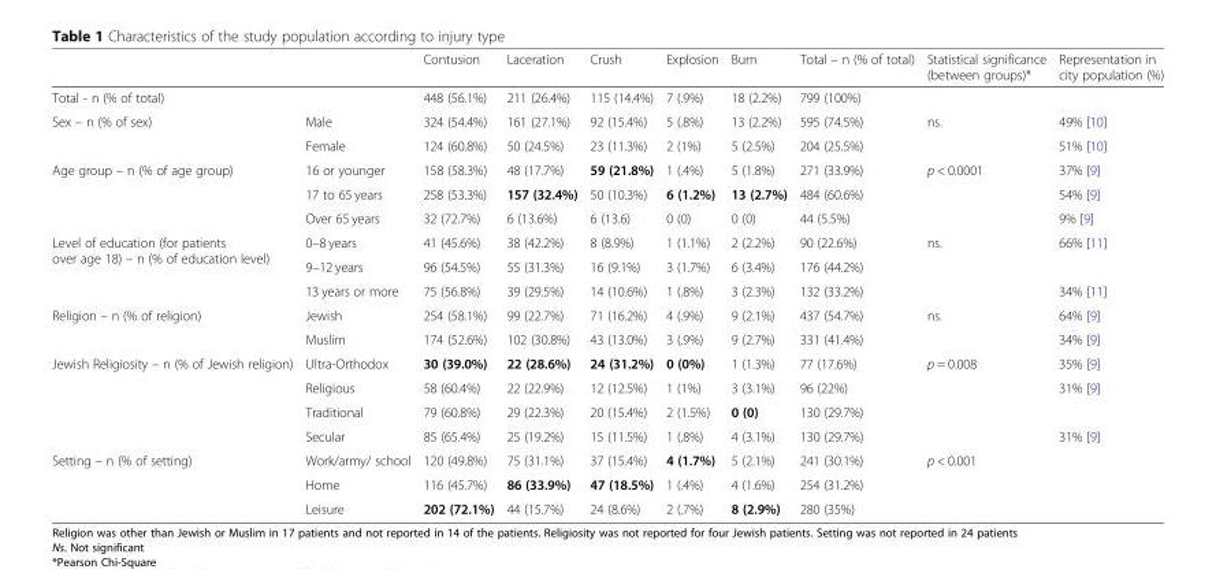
<table><thead><tr><td></td><td></td><td>Contusion</td><td>Laceration</td><td>Crush</td><td>Explosion</td><td>Burn</td><td>Total – n (% of total)</td><td>Statistical significance (between groups)*</td><td>Representation in city population (%)</td></tr></thead><tbody><tr><td>Total - n (% of total)</td><td></td><td>448 (56.1%)</td><td>211 (26.4%)</td><td>115 (14.4%)</td><td>7 (.9%)</td><td>18 (2.2%)</td><td>799 (100%)</td><td></td><td></td></tr><tr><td rowspan="2">Sex – n (% of sex)</td><td>Male</td><td>324 (54.4%)</td><td>161 (27.1%)</td><td>92 (15.4%)</td><td>5 (.8%)</td><td>13 (2.2%)</td><td>595 (74.5%)</td><td rowspan="2">ns.</td><td>49% [10]</td></tr><tr><td>Female</td><td>124 (60.8%)</td><td>50 (24.5%)</td><td>23 (11.3%)</td><td>2 (1%)</td><td>5 (2.5%)</td><td>204 (25.5%)</td><td>51% [10]</td></tr><tr><td rowspan="3">Age group – n (% of age group)</td><td>16 or younger</td><td>158 (58.3%)</td><td>48 (17.7%)</td><td>59 (21.8%)</td><td>1 (.4%)</td><td>5 (1.8%)</td><td>271 (33.9%)</td><td rowspan="3">p &lt; 0.0001</td><td>37% [9]</td></tr><tr><td>17 to 65 years</td><td>258 (53.3%)</td><td>157 (32.4%)</td><td>50 (10.3%)</td><td>6 (1.2%)</td><td>13 (2.7%)</td><td>484 (60.6%)</td><td>54% [9]</td></tr><tr><td>Over 65 years</td><td>32 (72.7%)</td><td>6 (13.6%)</td><td>6 (13.6)</td><td>0 (0)</td><td>0 (0)</td><td>44 (5.5%)</td><td>9% [9]</td></tr><tr><td rowspan="3">Level of education (for patients over age 18) – n (% of education level)</td><td>0–8 years</td><td>41 (45.6%)</td><td>38 (42.2%)</td><td>8 (8.9%)</td><td>1 (1.1%)</td><td>2 (2.2%)</td><td>90 (22.6%)</td><td rowspan="3">ns.</td><td rowspan="2">66% [11]</td></tr><tr><td>9–12 years</td><td>96 (54.5%)</td><td>55 (31.3%)</td><td>16 (9.1%)</td><td>3 (1.7%)</td><td>6 (3.4%)</td><td>176 (44.2%)</td></tr><tr><td>13 years or more</td><td>75 (56.8%)</td><td>39 (29.5%)</td><td>14 (10.6%)</td><td>1 (.8%)</td><td>3 (2.3%)</td><td>132 (33.2%)</td><td>34% [11]</td></tr><tr><td rowspan="2">Religion – n (% of religion)</td><td>Jewish</td><td>254 (58.1%)</td><td>99 (22.7%)</td><td>71 (16.2%)</td><td>4 (.9%)</td><td>9 (2.1%)</td><td>437 (54.7%)</td><td rowspan="2">ns.</td><td>64% [9]</td></tr><tr><td>Muslim</td><td>174 (52.6%)</td><td>102 (30.8%)</td><td>43 (13.0%)</td><td>3 (.9%)</td><td>9 (2.7%)</td><td>331 (41.4%)</td><td>34% [9]</td></tr><tr><td rowspan="4">Jewish Religiosity – n (% of Jewish religion)</td><td>Ultra-Orthodox</td><td>30 (39.0%)</td><td>22 (28.6%)</td><td>24 (31.2%)</td><td>0 (0%)</td><td>1 (1.3%)</td><td>77 (17.6%)</td><td rowspan="4">p = 0.008</td><td>35% [9]</td></tr><tr><td>Religious</td><td>58 (60.4%)</td><td>22 (22.9%)</td><td>12 (12.5%)</td><td>1 (1%)</td><td>3 (3.1%)</td><td>96 (22%)</td><td rowspan="2">31% [9]</td></tr><tr><td>Traditional</td><td>79 (60.8%)</td><td>29 (22.3%)</td><td>20 (15.4%)</td><td>2 (1.5%)</td><td>0 (0)</td><td>130 (29.7%)</td></tr><tr><td>Secular</td><td>85 (65.4%)</td><td>25 (19.2%)</td><td>15 (11.5%)</td><td>1 (.8%)</td><td>4 (3.1%)</td><td>130 (29.7%)</td><td>31% [9]</td></tr><tr><td rowspan="3">Setting – n (% of setting)</td><td>Work/army/ school</td><td>120 (49.8%)</td><td>75 (31.1%)</td><td>37 (15.4%)</td><td>4 (1.7%)</td><td>5 (2.1%)</td><td>241 (30.1%)</td><td rowspan="3">p &lt; 0.001</td><td></td></tr><tr><td>Home</td><td>116 (45.7%)</td><td>86 (33.9%)</td><td>47 (18.5%)</td><td>1 (.4%)</td><td>4 (1.6%)</td><td>254 (31.2%)</td><td></td></tr><tr><td>Leisure</td><td>202 (72.1%)</td><td>44 (15.7%)</td><td>24 (8.6%)</td><td>2 (.7%)</td><td>8 (2.9%)</td><td>280 (35%)</td><td></td></tr></tbody></table>